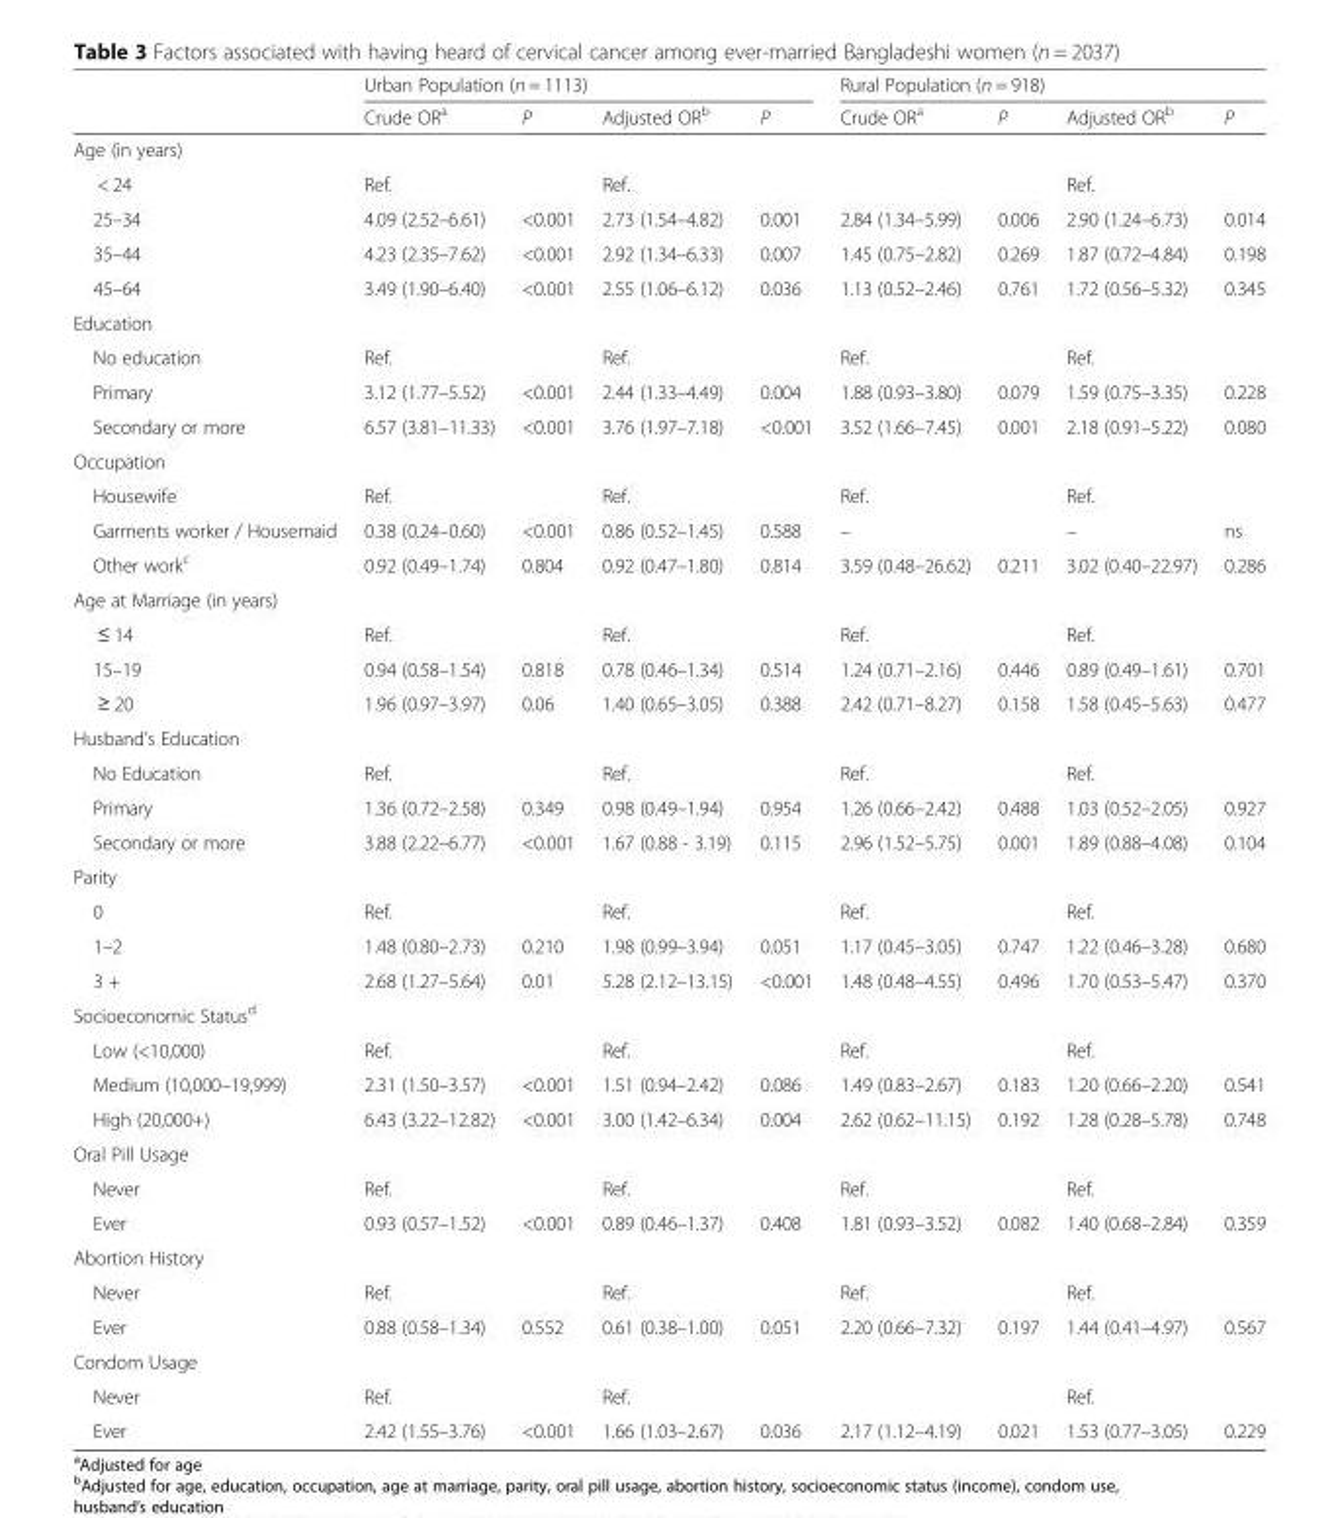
<table><thead><tr><td rowspan="2"></td><td colspan="4">Urban Population (n = 1113)</td><td colspan="4">Rural Population (n = 918)</td></tr><tr><td>Crude OR<sup>a</sup></td><td>P</td><td>Adjusted OR<sup>b</sup></td><td>P</td><td>Crude OR<sup>a</sup></td><td>P</td><td>Adjusted OR<sup>b</sup></td><td>P</td></tr></thead><tbody><tr><td colspan="9">Age (in years)</td></tr><tr><td>&lt; 24</td><td>Ref.</td><td></td><td>Ref.</td><td></td><td></td><td></td><td>Ref.</td><td></td></tr><tr><td>25–34</td><td>4.09 (2.52–6.61)</td><td>&lt;0.001</td><td>2.73 (1.54–4.82)</td><td>0.001</td><td>2.84 (1.34–5.99)</td><td>0.006</td><td>2.90 (1.24–6.73)</td><td>0.014</td></tr><tr><td>35–44</td><td>4.23 (2.35–7.62)</td><td>&lt;0.001</td><td>2.92 (1.34–6.33)</td><td>0.007</td><td>1.45 (0.75–2.82)</td><td>0.269</td><td>1.87 (0.72–4.84)</td><td>0.198</td></tr><tr><td>45–64</td><td>3.49 (1.90–6.40)</td><td>&lt;0.001</td><td>2.55 (1.06–6.12)</td><td>0.036</td><td>1.13 (0.52–2.46)</td><td>0.761</td><td>1.72 (0.56–5.32)</td><td>0.345</td></tr><tr><td colspan="9">Education</td></tr><tr><td>No education</td><td>Ref.</td><td></td><td>Ref.</td><td></td><td>Ref.</td><td></td><td>Ref.</td><td></td></tr><tr><td>Primary</td><td>3.12 (1.77–5.52)</td><td>&lt;0.001</td><td>2.44 (1.33–4.49)</td><td>0.004</td><td>1.88 (0.93–3.80)</td><td>0.079</td><td>1.59 (0.75–3.35)</td><td>0.228</td></tr><tr><td>Secondary or more</td><td>6.57 (3.81–11.33)</td><td>&lt;0.001</td><td>3.76 (1.97–7.18)</td><td>&lt;0.001</td><td>3.52 (1.66–7.45)</td><td>0.001</td><td>2.18 (0.91–5.22)</td><td>0.080</td></tr><tr><td colspan="9">Occupation</td></tr><tr><td>Housewife</td><td>Ref.</td><td></td><td>Ref.</td><td></td><td>Ref.</td><td></td><td>Ref.</td><td></td></tr><tr><td>Garments worker / Housemaid</td><td>0.38 (0.24–0.60)</td><td>&lt;0.001</td><td>0.86 (0.52–1.45)</td><td>0.588</td><td>–</td><td></td><td>–</td><td>ns</td></tr><tr><td>Other workc</td><td>0.92 (0.49–1.74)</td><td>0.804</td><td>0.92 (0.47–1.80)</td><td>0.814</td><td>3.59 (0.48–26.62)</td><td>0.211</td><td>3.02 (0.40–22.97)</td><td>0.286</td></tr><tr><td colspan="9">Age at Marriage (in years)</td></tr><tr><td>≤ 14</td><td>Ref.</td><td></td><td>Ref.</td><td></td><td>Ref.</td><td></td><td>Ref.</td><td></td></tr><tr><td>15–19</td><td>0.94 (0.58–1.54)</td><td>0.818</td><td>0.78 (0.46–1.34)</td><td>0.514</td><td>1.24 (0.71–2.16)</td><td>0.446</td><td>0.89 (0.49–1.61)</td><td>0.701</td></tr><tr><td>≥ 20</td><td>1.96 (0.97–3.97)</td><td>0.06</td><td>1.40 (0.65–3.05)</td><td>0.388</td><td>2.42 (0.71–8.27)</td><td>0.158</td><td>1.58 (0.45–5.63)</td><td>0.477</td></tr><tr><td colspan="9">Husband’s Education</td></tr><tr><td>No Education</td><td>Ref.</td><td></td><td>Ref.</td><td></td><td>Ref.</td><td></td><td>Ref.</td><td></td></tr><tr><td>Primary</td><td>1.36 (0.72–2.58)</td><td>0.349</td><td>0.98 (0.49–1.94)</td><td>0.954</td><td>1.26 (0.66–2.42)</td><td>0.488</td><td>1.03 (0.52–2.05)</td><td>0.927</td></tr><tr><td>Secondary or more</td><td>3.88 (2.22–6.77)</td><td>&lt;0.001</td><td>1.67 (0.88 - 3.19)</td><td>0.115</td><td>2.96 (1.52–5.75)</td><td>0.001</td><td>1.89 (0.88–4.08)</td><td>0.104</td></tr><tr><td colspan="9">Parity</td></tr><tr><td>0</td><td>Ref.</td><td></td><td>Ref.</td><td></td><td>Ref.</td><td></td><td>Ref.</td><td></td></tr><tr><td>1–2</td><td>1.48 (0.80–2.73)</td><td>0.210</td><td>1.98 (0.99–3.94)</td><td>0.051</td><td>1.17 (0.45–3.05)</td><td>0.747</td><td>1.22 (0.46–3.28)</td><td>0.680</td></tr><tr><td>3 +</td><td>2.68 (1.27–5.64)</td><td>0.01</td><td>5.28 (2.12–13.15)</td><td>&lt;0.001</td><td>1.48 (0.48–4.55)</td><td>0.496</td><td>1.70 (0.53–5.47)</td><td>0.370</td></tr><tr><td colspan="9">Socioeconomic Status<sup>d</sup></td></tr><tr><td>Low (&lt;10,000)</td><td>Ref.</td><td></td><td>Ref.</td><td></td><td>Ref.</td><td></td><td>Ref.</td><td></td></tr><tr><td>Medium (10,000–19,999)</td><td>2.31 (1.50–3.57)</td><td>&lt;0.001</td><td>1.51 (0.94–2.42)</td><td>0.086</td><td>1.49 (0.83–2.67)</td><td>0.183</td><td>1.20 (0.66–2.20)</td><td>0.541</td></tr><tr><td>High (20,000+)</td><td>6.43 (3.22–12.82)</td><td>&lt;0.001</td><td>3.00 (1.42–6.34)</td><td>0.004</td><td>2.62 (0.62–11.15)</td><td>0.192</td><td>1.28 (0.28–5.78)</td><td>0.748</td></tr><tr><td colspan="9">Oral Pill Usage</td></tr><tr><td>Never</td><td>Ref.</td><td></td><td>Ref.</td><td></td><td>Ref.</td><td></td><td>Ref.</td><td></td></tr><tr><td>Ever</td><td>0.93 (0.57–1.52)</td><td>&lt;0.001</td><td>0.89 (0.46–1.37)</td><td>0.408</td><td>1.81 (0.93–3.52)</td><td>0.082</td><td>1.40 (0.68–2.84)</td><td>0.359</td></tr><tr><td colspan="9">Abortion History</td></tr><tr><td>Never</td><td>Ref.</td><td></td><td>Ref.</td><td></td><td>Ref.</td><td></td><td>Ref.</td><td></td></tr><tr><td>Ever</td><td>0.88 (0.58–1.34)</td><td>0.552</td><td>0.61 (0.38–1.00)</td><td>0.051</td><td>2.20 (0.66–7.32)</td><td>0.197</td><td>1.44 (0.41–4.97)</td><td>0.567</td></tr><tr><td colspan="9">Condom Usage</td></tr><tr><td>Never</td><td>Ref.</td><td></td><td>Ref.</td><td></td><td></td><td></td><td>Ref.</td><td></td></tr><tr><td>Ever</td><td>2.42 (1.55–3.76)</td><td>&lt;0.001</td><td>1.66 (1.03–2.67)</td><td>0.036</td><td>2.17 (1.12–4.19)</td><td>0.021</td><td>1.53 (0.77–3.05)</td><td>0.229</td></tr></tbody></table>